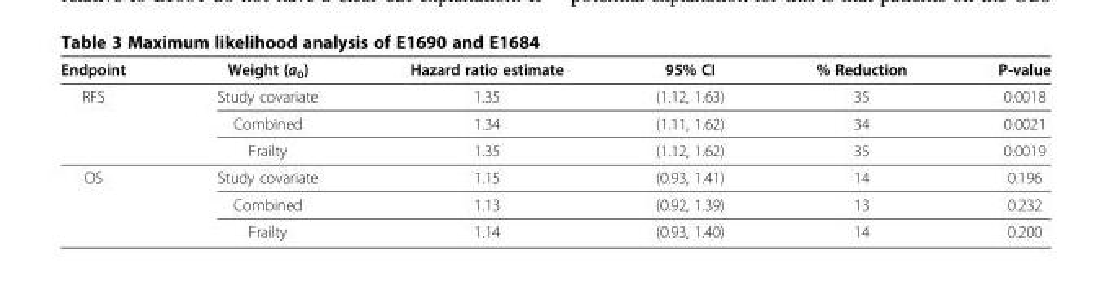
<table><thead><tr><td>Endpoint</td><td>Weight (a<sub>0</sub>)</td><td>Hazard ratio estimate</td><td>95% CI</td><td>% Reduction</td><td>P-value</td></tr></thead><tbody><tr><td rowspan="3">RFS</td><td>Study covariate</td><td>1.35</td><td>(1.12, 1.63)</td><td>35</td><td>0.0018</td></tr><tr><td>Combined</td><td>1.34</td><td>(1.11, 1.62)</td><td>34</td><td>0.0021</td></tr><tr><td>Frailty</td><td>1.35</td><td>(1.12, 1.62)</td><td>35</td><td>0.0019</td></tr><tr><td rowspan="3">OS</td><td>Study covariate</td><td>1.15</td><td>(0.93, 1.41)</td><td>14</td><td>0.196</td></tr><tr><td>Combined</td><td>1.13</td><td>(0.92, 1.39)</td><td>13</td><td>0.232</td></tr><tr><td>Frailty</td><td>1.14</td><td>(0.93, 1.40)</td><td>14</td><td>0.200</td></tr></tbody></table>